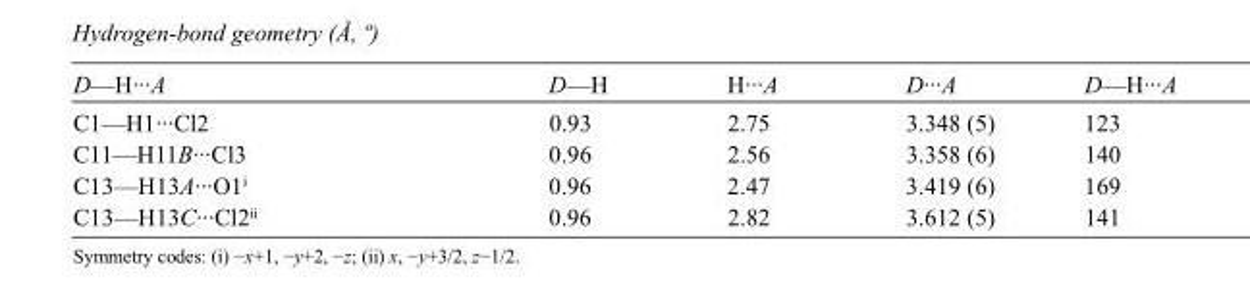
<table><tbody><tr><td>D—H···A</td><td>D—H</td><td>H···A</td><td>D···A</td><td>D—H···A</td></tr><tr><td>C1—H1···Cl2</td><td>0.93</td><td>2.75</td><td>3.348 (5)</td><td>123</td></tr><tr><td>C11—H11B···Cl3</td><td>0.96</td><td>2.56</td><td>3.358 (6)</td><td>140</td></tr><tr><td>C13—H13A···O1<sup>i</sup></td><td>0.96</td><td>2.47</td><td>3.419 (6)</td><td>169</td></tr><tr><td>C13—H13C···Cl2<sup>ii</sup></td><td>0.96</td><td>2.82</td><td>3.612 (5)</td><td>141</td></tr></tbody></table>